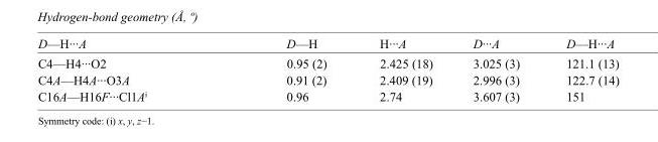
<table><tbody><tr><td>D—H···A</td><td>D—H</td><td>H···A</td><td>D···A</td><td>D—H···A</td></tr><tr><td>C4—H4···O2</td><td>0.95 (2)</td><td>2.425 (18)</td><td>3.025 (3)</td><td>121.1 (13)</td></tr><tr><td>C4A—H4A···O3A</td><td>0.91 (2)</td><td>2.409 (19)</td><td>2.996 (3)</td><td>122.7 (14)</td></tr><tr><td>C16A—H16F···Cl1A<sup>i</sup></td><td>0.96</td><td>2.74</td><td>3.607 (3)</td><td>151</td></tr></tbody></table>